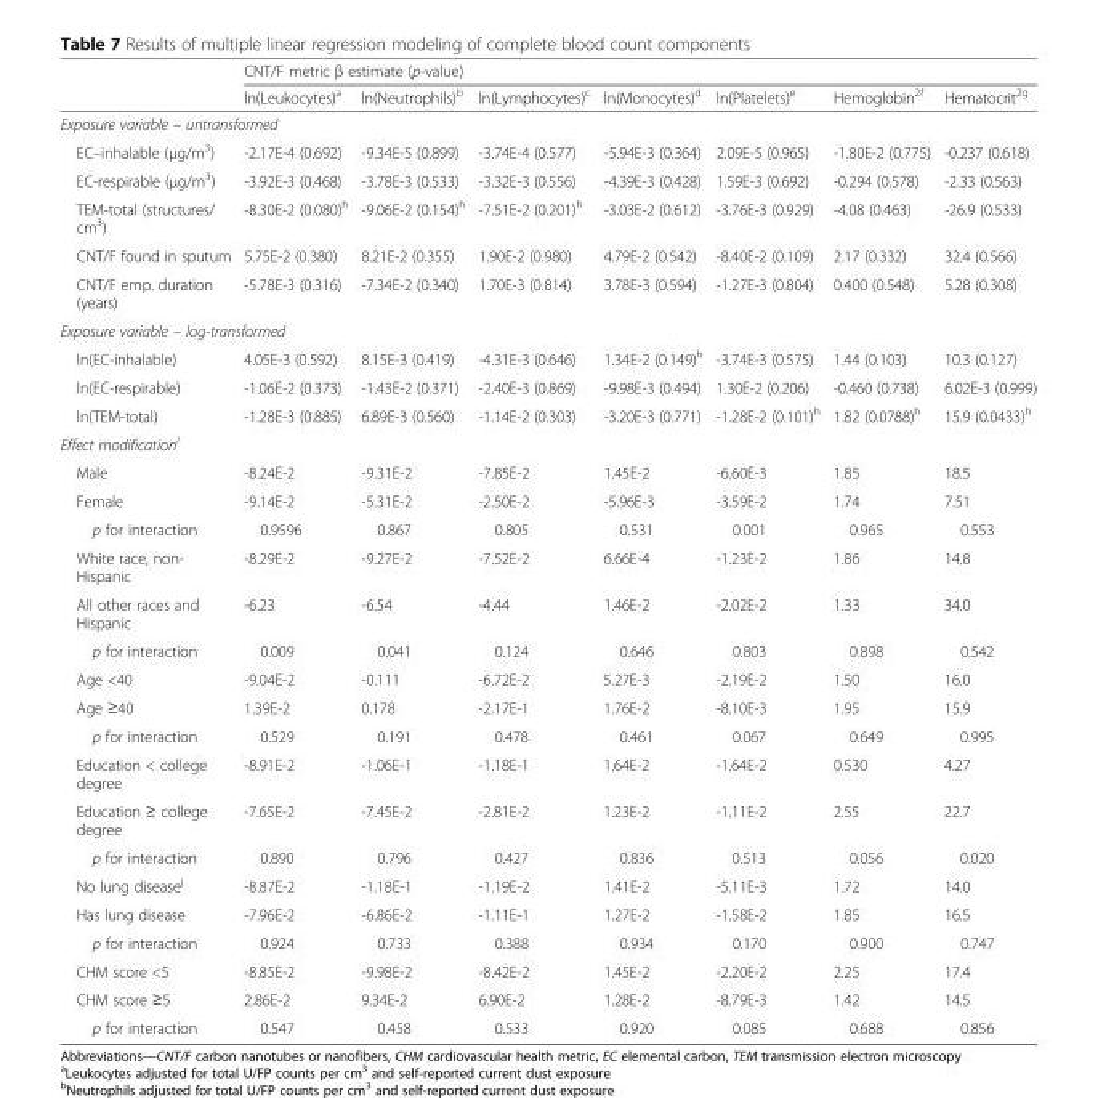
<table><thead><tr><td rowspan="2"></td><td colspan="4">CNT/F metric β estimate (p-value)</td><td rowspan="2">ln(Platelets)<sup>e</sup></td><td rowspan="2">Hemoglobin<sup>2f</sup></td><td rowspan="2">Hematocrit<sup>2g</sup></td></tr><tr><td>ln(Leukocytes)<sup>a</sup></td><td>ln(Neutrophils)<sup>b</sup></td><td>ln(Lymphocytes)<sup>c</sup></td><td>ln(Monocytes)<sup>d</sup></td></tr></thead><tbody><tr><td colspan="8">Exposure variable – untransformed</td></tr><tr><td>EC–inhalable (μg/m<sup>3</sup>)</td><td>-2.17E-4 (0.692)</td><td>-9.34E-5 (0.899)</td><td>-3.74E-4 (0.577)</td><td>-5.94E-3 (0.364)</td><td>2.09E-5 (0.965)</td><td>-1.80E-2 (0.775)</td><td>-0.237 (0.618)</td></tr><tr><td>EC-respirable (μg/m<sup>3</sup>)</td><td>-3.92E-3 (0.468)</td><td>-3.78E-3 (0.533)</td><td>-3.32E-3 (0.556)</td><td>-4.39E-3 (0.428)</td><td>1.59E-3 (0.692)</td><td>-0.294 (0.578)</td><td>-2.33 (0.563)</td></tr><tr><td>TEM-total (structures/ cm<sup>3</sup>)</td><td>-8.30E-2 (0.080)<sup>h</sup></td><td>-9.06E-2 (0.154)<sup>h</sup></td><td>-7.51E-2 (0.201)<sup>h</sup></td><td>-3.03E-2 (0.612)</td><td>-3.76E-3 (0.929)</td><td>-4.08 (0.463)</td><td>-26.9 (0.533)</td></tr><tr><td>CNT/F found in sputum</td><td>5.75E-2 (0.380)</td><td>8.21E-2 (0.355)</td><td>1.90E-2 (0.980)</td><td>4.79E-2 (0.542)</td><td>-8.40E-2 (0.109)</td><td>2.17 (0.332)</td><td>32.4 (0.566)</td></tr><tr><td>CNT/F emp. duration (years)</td><td>-5.78E-3 (0.316)</td><td>-7.34E-2 (0.340)</td><td>1.70E-3 (0.814)</td><td>3.78E-3 (0.594)</td><td>-1.27E-3 (0.804)</td><td>0.400 (0.548)</td><td>5.28 (0.308)</td></tr><tr><td colspan="8">Exposure variable – log-transformed</td></tr><tr><td>ln(EC-inhalable)</td><td>4.05E-3 (0.592)</td><td>8.15E-3 (0.419)</td><td>-4.31E-3 (0.646)</td><td>1.34E-2 (0.149)<sup>h</sup></td><td>-3.74E-3 (0.575)</td><td>1.44 (0.103)</td><td>10.3 (0.127)</td></tr><tr><td>ln(EC-respirable)</td><td>-1.06E-2 (0.373)</td><td>-1.43E-2 (0.371)</td><td>-2.40E-3 (0.869)</td><td>-9.98E-3 (0.494)</td><td>1.30E-2 (0.206)</td><td>-0.460 (0.738)</td><td>6.02E-3 (0.999)</td></tr><tr><td>ln(TEM-total)</td><td>-1.28E-3 (0.885)</td><td>6.89E-3 (0.560)</td><td>-1.14E-2 (0.303)</td><td>-3.20E-3 (0.771)</td><td>-1.28E-2 (0.101)<sup>h</sup></td><td>1.82 (0.0788)<sup>h</sup></td><td>15.9 (0.0433)<sup>h</sup></td></tr><tr><td colspan="8">Effect modification<sup>i</sup></td></tr><tr><td>Male</td><td>-8.24E-2</td><td>-9.31E-2</td><td>-7.85E-2</td><td>1.45E-2</td><td>-6.60E-3</td><td>1.85</td><td>18.5</td></tr><tr><td>Female</td><td>-9.14E-2</td><td>-5.31E-2</td><td>-2.50E-2</td><td>-5.96E-3</td><td>-3.59E-2</td><td>1.74</td><td>7.51</td></tr><tr><td>p for interaction</td><td>0.9596</td><td>0.867</td><td>0.805</td><td>0.531</td><td>0.001</td><td>0.965</td><td>0.553</td></tr><tr><td>White race, non- Hispanic</td><td>-8.29E-2</td><td>-9.27E-2</td><td>-7.52E-2</td><td>6.66E-4</td><td>-1.23E-2</td><td>1.86</td><td>14.8</td></tr><tr><td>All other races and Hispanic</td><td>-6.23</td><td>-6.54</td><td>-4.44</td><td>1.46E-2</td><td>-2.02E-2</td><td>1.33</td><td>34.0</td></tr><tr><td>p for interaction</td><td>0.009</td><td>0.041</td><td>0.124</td><td>0.646</td><td>0.803</td><td>0.898</td><td>0.542</td></tr><tr><td>Age &lt;40</td><td>-9.04E-2</td><td>-0.111</td><td>-6.72E-2</td><td>5.27E-3</td><td>-2.19E-2</td><td>1.50</td><td>16.0</td></tr><tr><td>Age ≥40</td><td>1.39E-2</td><td>0.178</td><td>-2.17E-1</td><td>1.76E-2</td><td>-8.10E-3</td><td>1.95</td><td>15.9</td></tr><tr><td>p for interaction</td><td>0.529</td><td>0.191</td><td>0.478</td><td>0.461</td><td>0.067</td><td>0.649</td><td>0.995</td></tr><tr><td>Education &lt; college degree</td><td>-8.91E-2</td><td>-1.06E-1</td><td>-1.18E-1</td><td>1.64E-2</td><td>-1.64E-2</td><td>0.530</td><td>4.27</td></tr><tr><td>Education ≥ college degree</td><td>-7.65E-2</td><td>-7.45E-2</td><td>-2.81E-2</td><td>1.23E-2</td><td>-1.11E-2</td><td>2.55</td><td>22.7</td></tr><tr><td>p for interaction</td><td>0.890</td><td>0.796</td><td>0.427</td><td>0.836</td><td>0.513</td><td>0.056</td><td>0.020</td></tr><tr><td>No lung disease<sup>j</sup></td><td>-8.87E-2</td><td>-1.18E-1</td><td>-1.19E-2</td><td>1.41E-2</td><td>-5.11E-3</td><td>1.72</td><td>14.0</td></tr><tr><td>Has lung disease</td><td>-7.96E-2</td><td>-6.86E-2</td><td>-1.11E-1</td><td>1.27E-2</td><td>-1.58E-2</td><td>1.85</td><td>16.5</td></tr><tr><td>p for interaction</td><td>0.924</td><td>0.733</td><td>0.388</td><td>0.934</td><td>0.170</td><td>0.900</td><td>0.747</td></tr><tr><td>CHM score &lt;5</td><td>-8.85E-2</td><td>-9.98E-2</td><td>-8.42E-2</td><td>1.45E-2</td><td>-2.20E-2</td><td>2.25</td><td>17.4</td></tr><tr><td>CHM score ≥5</td><td>2.86E-2</td><td>9.34E-2</td><td>6.90E-2</td><td>1.28E-2</td><td>-8.79E-3</td><td>1.42</td><td>14.5</td></tr><tr><td>p for interaction</td><td>0.547</td><td>0.458</td><td>0.533</td><td>0.920</td><td>0.085</td><td>0.688</td><td>0.856</td></tr></tbody></table>